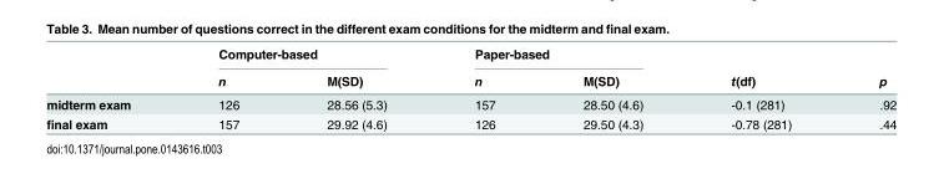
<table><thead><tr><td rowspan="2"></td><td colspan="2">Computer-based</td><td colspan="2">Paper-based</td><td rowspan="2">t(df)</td><td rowspan="2">p</td></tr><tr><td>n</td><td>M(SD)</td><td>n</td><td>M(SD)</td></tr></thead><tbody><tr><td>midterm exam</td><td>126</td><td>28.56 (5.3)</td><td>157</td><td>28.50 (4.6)</td><td>-0.1 (281)</td><td>.92</td></tr><tr><td>final exam</td><td>157</td><td>29.92 (4.6)</td><td>126</td><td>29.50 (4.3)</td><td>-0.78 (281)</td><td>.44</td></tr></tbody></table>